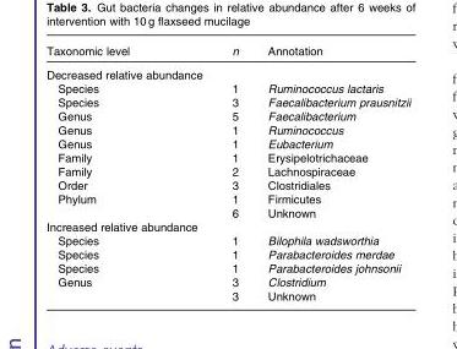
<table><thead><tr><td>Taxonomic level</td><td>n</td><td>Annotation</td></tr></thead><tbody><tr><td colspan="3">Decreased relative abundance</td></tr><tr><td>Species</td><td>1</td><td>Ruminococcus lactaris</td></tr><tr><td>Species</td><td>3</td><td>Faecalibacterium prausnitzii</td></tr><tr><td>Genus</td><td>5</td><td>Faecalibacterium</td></tr><tr><td>Genus</td><td>1</td><td>Ruminococcus</td></tr><tr><td>Genus</td><td>1</td><td>Eubacterium</td></tr><tr><td>Family</td><td>1</td><td>Erysipelotrichaceae</td></tr><tr><td>Family</td><td>2</td><td>Lachnospiraceae</td></tr><tr><td>Order</td><td>3</td><td>Clostridiales</td></tr><tr><td rowspan="2">Phylum</td><td>1</td><td>Firmicutes</td></tr><tr><td>6</td><td>Unknown</td></tr><tr><td colspan="3">Increased relative abundance</td></tr><tr><td>Species</td><td>1</td><td>Bilophila wadsworthia</td></tr><tr><td>Species</td><td>1</td><td>Parabacteroides merdae</td></tr><tr><td>Species</td><td>1</td><td>Parabacteroides johnsonii</td></tr><tr><td rowspan="2">Genus</td><td>3</td><td>Clostridium</td></tr><tr><td>3</td><td>Unknown</td></tr></tbody></table>